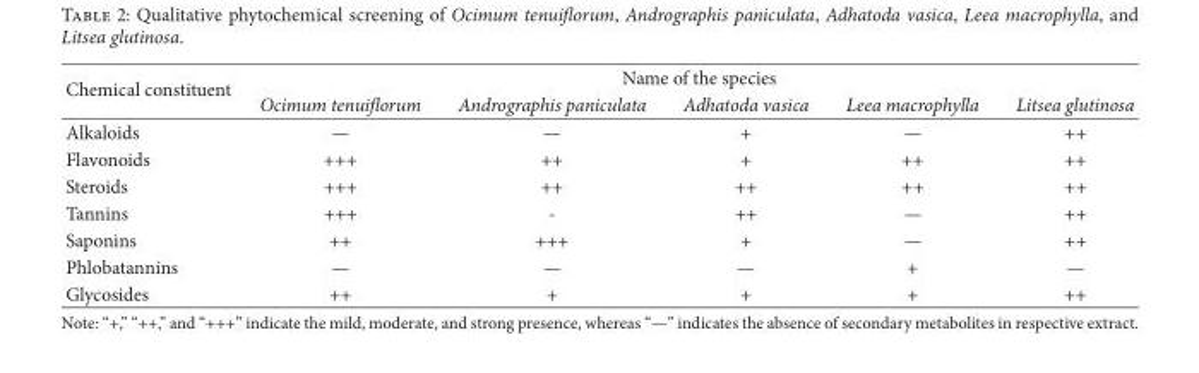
<table><thead><tr><td rowspan="2">Chemical constituent</td><td colspan="5">Name of the species</td></tr><tr><td>Ocimum tenuiflorum</td><td>Andrographis paniculata</td><td>Adhatoda vasica</td><td>Leea macrophylla</td><td>Litsea glutinosa</td></tr></thead><tbody><tr><td>Alkaloids</td><td>—</td><td>—</td><td>+</td><td>—</td><td>++</td></tr><tr><td>Flavonoids</td><td>+++</td><td>++</td><td>+</td><td>++</td><td>++</td></tr><tr><td>Steroids</td><td>+++</td><td>++</td><td>++</td><td>++</td><td>++</td></tr><tr><td>Tannins</td><td>+++</td><td>-</td><td>++</td><td>—</td><td>++</td></tr><tr><td>Saponins</td><td>++</td><td>+++</td><td>+</td><td>—</td><td>++</td></tr><tr><td>Phlobatannins</td><td>—</td><td>—</td><td>—</td><td>+</td><td>—</td></tr><tr><td>Glycosides</td><td>++</td><td>+</td><td>+</td><td>+</td><td>++</td></tr></tbody></table>